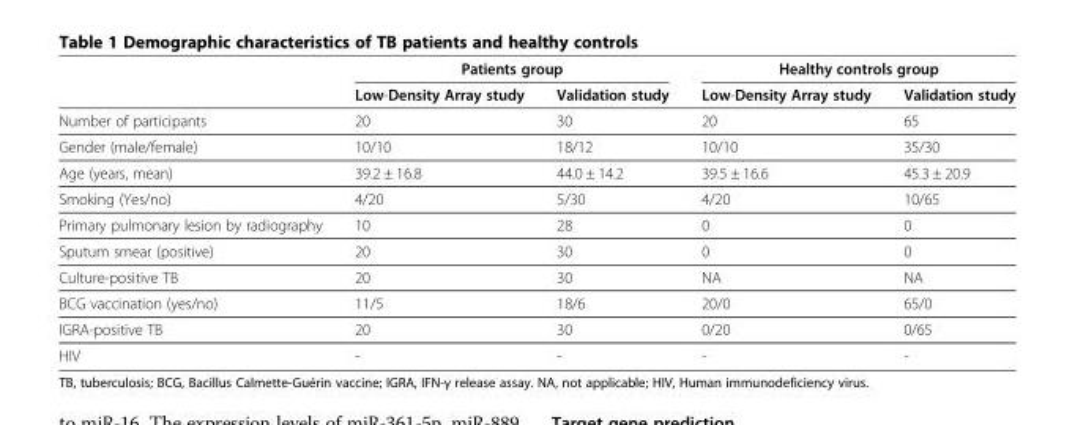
<table><thead><tr><td rowspan="2"></td><td colspan="2">Patients group</td><td colspan="2">Healthy controls group</td></tr><tr><td>Low-Density Array study</td><td>Validation study</td><td>Low-Density Array study</td><td>Validation study</td></tr></thead><tbody><tr><td>Number of participants</td><td>20</td><td>30</td><td>20</td><td>65</td></tr><tr><td>Gender (male/female)</td><td>10/10</td><td>18/12</td><td>10/10</td><td>35/30</td></tr><tr><td>Age (years, mean)</td><td>39.2 ± 16.8</td><td>44.0 ± 14.2</td><td>39.5 ± 16.6</td><td>45.3 ± 20.9</td></tr><tr><td>Smoking (Yes/no)</td><td>4/20</td><td>5/30</td><td>4/20</td><td>10/65</td></tr><tr><td>Primary pulmonary lesion by radiography</td><td>10</td><td>28</td><td>0</td><td>0</td></tr><tr><td>Sputum smear (positive)</td><td>20</td><td>30</td><td>0</td><td>0</td></tr><tr><td>Culture-positive TB</td><td>20</td><td>30</td><td>NA</td><td>NA</td></tr><tr><td>BCG vaccination (yes/no)</td><td>11/5</td><td>18/6</td><td>20/0</td><td>65/0</td></tr><tr><td>IGRA-positive TB</td><td>20</td><td>30</td><td>0/20</td><td>0/65</td></tr><tr><td>HIV</td><td>-</td><td>-</td><td>-</td><td>-</td></tr></tbody></table>